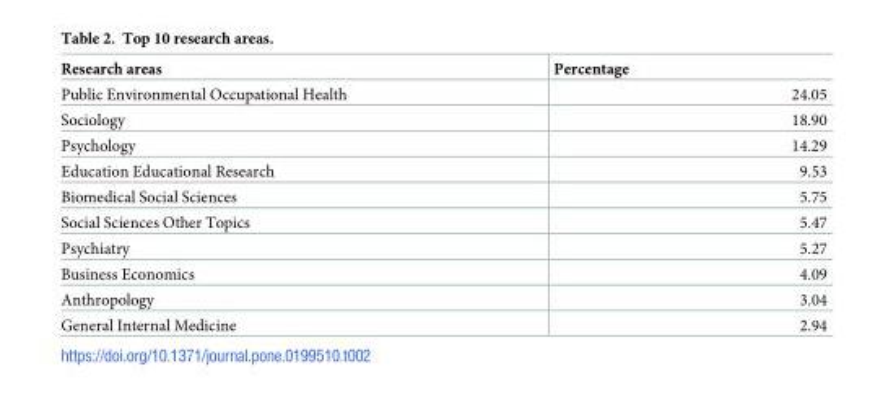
<table><thead><tr><td>Research areas</td><td>Percentage</td></tr></thead><tbody><tr><td>Public Environmental Occupational Health</td><td>24.05</td></tr><tr><td>Sociology</td><td>18.90</td></tr><tr><td>Psychology</td><td>14.29</td></tr><tr><td>Education Educational Research</td><td>9.53</td></tr><tr><td>Biomedical Social Sciences</td><td>5.75</td></tr><tr><td>Social Sciences Other Topics</td><td>5.47</td></tr><tr><td>Psychiatry</td><td>5.27</td></tr><tr><td>Business Economics</td><td>4.09</td></tr><tr><td>Anthropology</td><td>3.04</td></tr><tr><td>General Internal Medicine</td><td>2.94</td></tr></tbody></table>